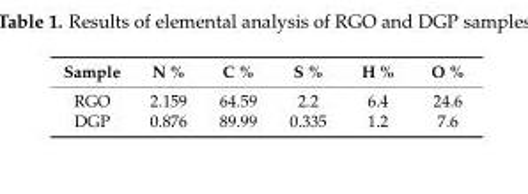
<table><thead><tr><td>Sample</td><td>N %</td><td>C %</td><td>S %</td><td>H %</td><td>O %</td></tr></thead><tbody><tr><td>RGO</td><td>2.159</td><td>64.59</td><td>2.2</td><td>6.4</td><td>24.6</td></tr><tr><td>DGP</td><td>0.876</td><td>89.99</td><td>0.335</td><td>1.2</td><td>7.6</td></tr></tbody></table>